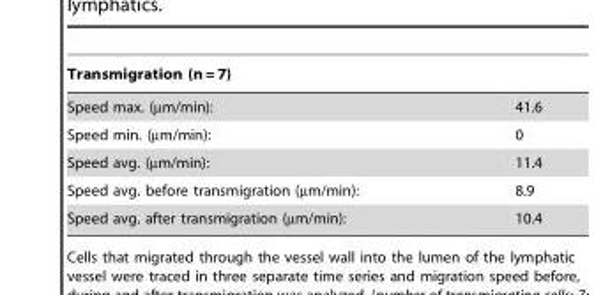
<table><thead><tr><td colspan="2">Transmigration (n = 7)</td></tr><tr><td>Speed max. (µm/min):</td><td>41.6</td></tr></thead><tbody><tr><td>Speed min. (µm/min):</td><td>0</td></tr><tr><td>Speed avg. (µm/min):</td><td>11.4</td></tr><tr><td>Speed avg. before transmigration (µm/min):</td><td>8.9</td></tr><tr><td>Speed avg. after transmigration (µm/min):</td><td>10.4</td></tr></tbody></table>